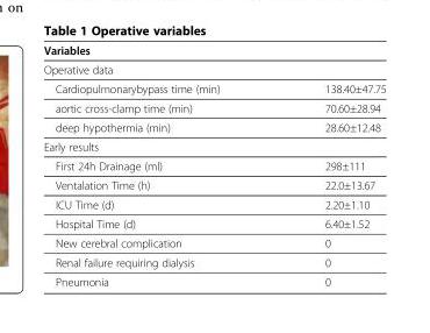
<table><thead><tr><td>Variables</td><td></td></tr></thead><tbody><tr><td colspan="2">Operative data</td></tr><tr><td>Cardiopulmonarybypass time (min)</td><td>138.40±47.75</td></tr><tr><td>aortic cross-clamp time (min)</td><td>70.60±28.94</td></tr><tr><td>deep hypothermia (min)</td><td>28.60±12.48</td></tr><tr><td colspan="2">Early results</td></tr><tr><td>First 24h Drainage (ml)</td><td>298±111</td></tr><tr><td>Ventalation Time (h)</td><td>22.0±13.67</td></tr><tr><td>ICU Time (d)</td><td>2.20±1.10</td></tr><tr><td>Hospital Time (d)</td><td>6.40±1.52</td></tr><tr><td>New cerebral complication</td><td>0</td></tr><tr><td>Renal failure requiring dialysis</td><td>0</td></tr><tr><td>Pneumonia</td><td>0</td></tr></tbody></table>